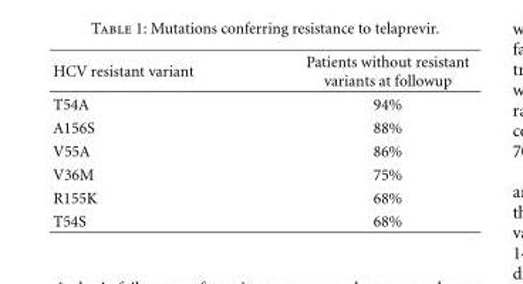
<table><thead><tr><td>HCV resistant variant</td><td>Patients without resistant variants at followup</td></tr></thead><tbody><tr><td>T54A</td><td>94%</td></tr><tr><td>A156S</td><td>88%</td></tr><tr><td>V55A</td><td>86%</td></tr><tr><td>V36M</td><td>75%</td></tr><tr><td>R155K</td><td>68%</td></tr><tr><td>T54S</td><td>68%</td></tr></tbody></table>